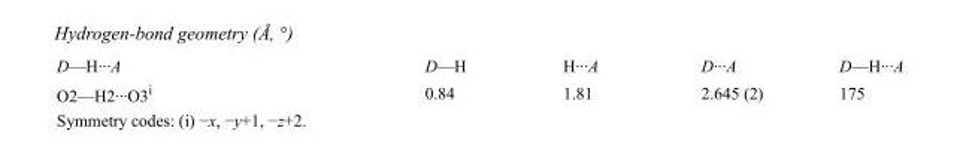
<table><tbody><tr><td>D—H···A</td><td>D—H</td><td>H···A</td><td>D···A</td><td>D—H···A</td></tr><tr><td>O2—H2···O3<sup>i</sup></td><td>0.84</td><td>1.81</td><td>2.645 (2)</td><td>175</td></tr></tbody></table>